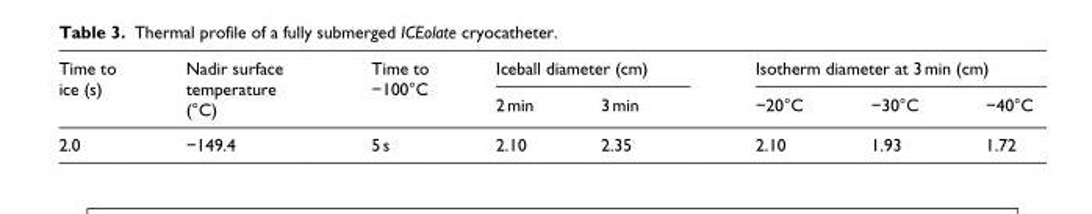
<table><thead><tr><td rowspan="2">Time to ice (s)</td><td rowspan="2">Nadir surface temperature (°C)</td><td rowspan="2">Time to −100°C</td><td colspan="2">Iceball diameter (cm)</td><td colspan="3">Isotherm diameter at 3 min (cm)</td></tr><tr><td>2 min</td><td>3 min</td><td>−20°C</td><td>−30°C</td><td>−40°C</td></tr></thead><tbody><tr><td>2.0</td><td>−149.4</td><td>5 s</td><td>2.10</td><td>2.35</td><td>2.10</td><td>1.93</td><td>1.72</td></tr></tbody></table>